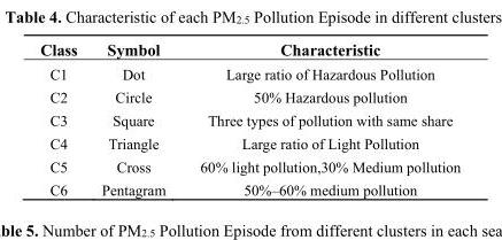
<table><thead><tr><td>Class</td><td>Symbol</td><td>Characteristic</td></tr></thead><tbody><tr><td>C1</td><td>Dot</td><td>Large ratio of Hazardous Pollution</td></tr><tr><td>C2</td><td>Circle</td><td>50% Hazardous pollution</td></tr><tr><td>C3</td><td>Square</td><td>Three types of pollution with same share</td></tr><tr><td>C4</td><td>Triangle</td><td>Large ratio of Light Pollution</td></tr><tr><td>C5</td><td>Cross</td><td>60% light pollution,30% Medium pollution</td></tr><tr><td>C6</td><td>Pentagram</td><td>50%–60% medium pollution</td></tr></tbody></table>